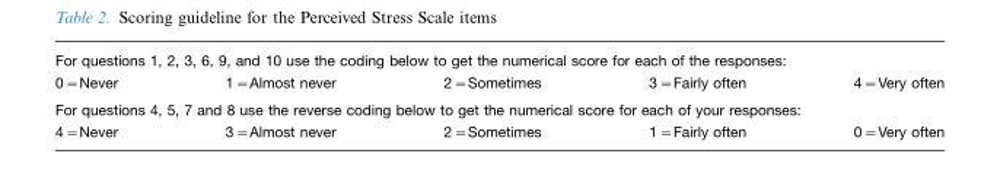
<table><tbody><tr><td colspan="5">For questions 1, 2, 3, 6, 9, and 10 use the coding below to get the numerical score for each of the responses:</td></tr><tr><td>0=Never</td><td>1=Almost never</td><td>2=Sometimes</td><td>3=Fairly often</td><td>4=Very often</td></tr><tr><td colspan="5">For questions 4, 5, 7 and 8 use the reverse coding below to get the numerical score for each of your responses:</td></tr><tr><td>4=Never</td><td>3=Almost never</td><td>2=Sometimes</td><td>1=Fairly often</td><td>0=Very often</td></tr></tbody></table>